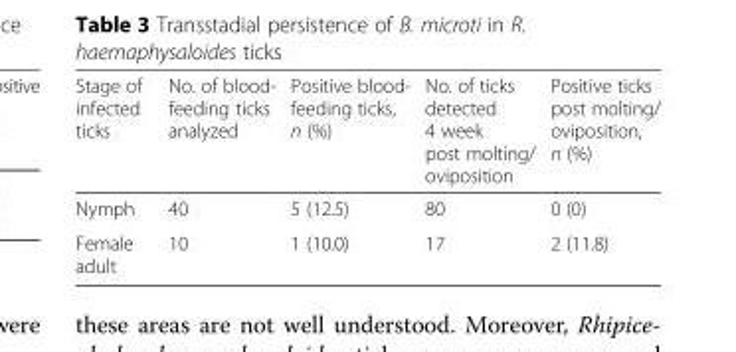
<table><thead><tr><td>Stage of infected ticks</td><td>No. of blood- feeding ticks analyzed</td><td>Positive blood- feeding ticks, n (%)</td><td>No. of ticks detected 4 week post molting/ oviposition</td><td>Positive ticks post molting/ oviposition, n (%)</td></tr></thead><tbody><tr><td>Nymph</td><td>40</td><td>5 (12.5)</td><td>80</td><td>0 (0)</td></tr><tr><td>Female adult</td><td>10</td><td>1 (10.0)</td><td>17</td><td>2 (11.8)</td></tr></tbody></table>